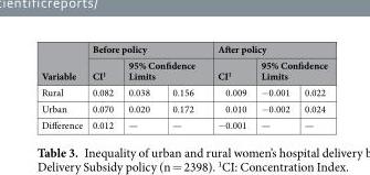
<table><thead><tr><td rowspan="3">Variable Rural</td><td colspan="3">Before policy</td><td colspan="3">After policy</td></tr><tr><td rowspan="2">CI<sup>1</sup> 0.082</td><td colspan="2">95% Confidence Limits</td><td rowspan="2">CI<sup>1</sup> 0.009</td><td colspan="2">95% Confidence Limits</td></tr><tr><td>0.038</td><td>0.156</td><td>−0.001</td><td>0.022</td></tr></thead><tbody><tr><td>Urban</td><td>0.070</td><td>0.020</td><td>0.172</td><td>0.010</td><td>−0.002</td><td>0.024</td></tr><tr><td>Difference</td><td>0.012</td><td>—</td><td>—</td><td>−0.001</td><td>—</td><td>—</td></tr></tbody></table>